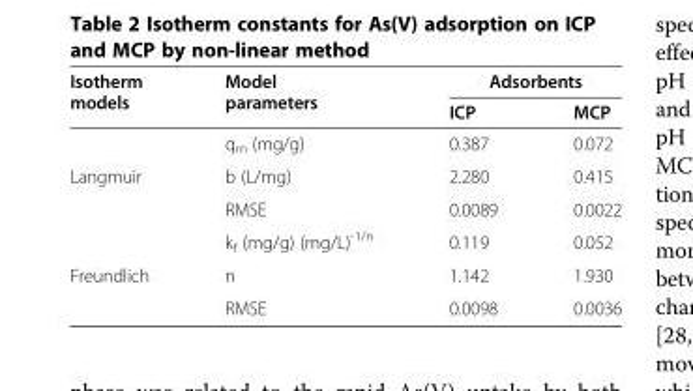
<table><thead><tr><td rowspan="2">Isotherm models</td><td rowspan="2">Model parameters</td><td colspan="2">Adsorbents</td></tr><tr><td>ICP</td><td>MCP</td></tr></thead><tbody><tr><td></td><td>q<sub>m</sub> (mg/g)</td><td>0.387</td><td>0.072</td></tr><tr><td rowspan="3">Langmuir</td><td>b (L/mg)</td><td>2.280</td><td>0.415</td></tr><tr><td>RMSE</td><td>0.0089</td><td>0.0022</td></tr><tr><td>k<sub>f</sub> (mg/g) (mg/L)<sup>-1/n</sup></td><td>0.119</td><td>0.052</td></tr><tr><td rowspan="2">Freundlich</td><td>n</td><td>1.142</td><td>1.930</td></tr><tr><td>RMSE</td><td>0.0098</td><td>0.0036</td></tr></tbody></table>